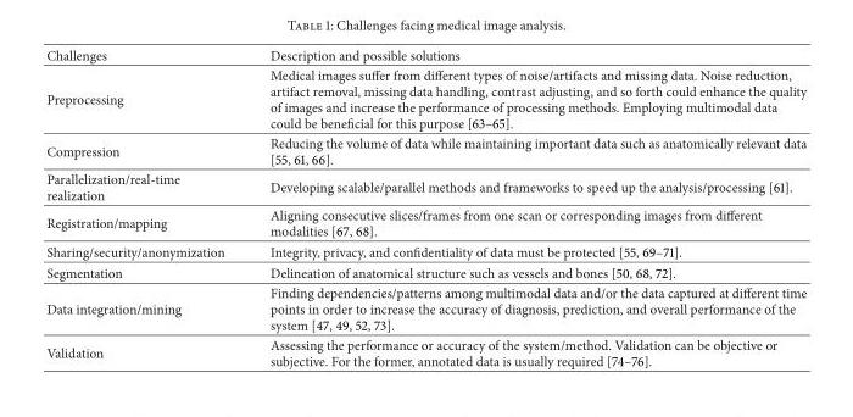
<table><thead><tr><td>Challenges</td><td>Description and possible solutions</td></tr></thead><tbody><tr><td>Preprocessing</td><td>Medical images suffer from different types of noise/artifacts and missing data. Noise reduction, artifact removal, missing data handling, contrast adjusting, and so forth could enhance the quality of images and increase the performance of processing methods. Employing multimodal data could be beneficial for this purpose [63–65].</td></tr><tr><td>Compression</td><td>Reducing the volume of data while maintaining important data such as anatomically relevant data [55, 61, 66].</td></tr><tr><td>Parallelization/real-time realization</td><td>Developing scalable/parallel methods and frameworks to speed up the analysis/processing [61].</td></tr><tr><td>Registration/mapping</td><td>Aligning consecutive slices/frames from one scan or corresponding images from different modalities [67, 68].</td></tr><tr><td>Sharing/security/anonymization</td><td>Integrity, privacy, and confidentiality of data must be protected [55, 69–71].</td></tr><tr><td>Segmentation</td><td>Delineation of anatomical structure such as vessels and bones [50, 68, 72].</td></tr><tr><td>Data integration/mining</td><td>Finding dependencies/patterns among multimodal data and/or the data captured at different time points in order to increase the accuracy of diagnosis, prediction, and overall performance of the system [47, 49, 52, 73].</td></tr><tr><td>Validation</td><td>Assessing the performance or accuracy of the system/method. Validation can be objective or subjective. For the former, annotated data is usually required [74–76].</td></tr></tbody></table>